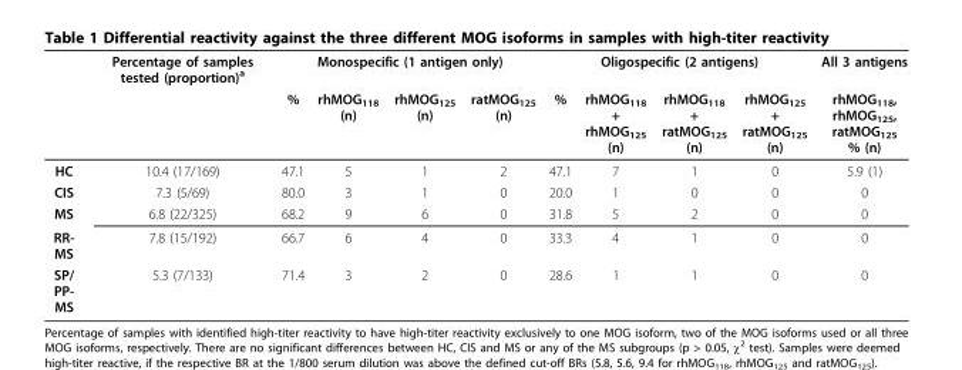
<table><thead><tr><td rowspan="2"></td><td rowspan="2">Percentage of samples tested (proportion)<sup>a</sup></td><td colspan="4">Monospecific (1 antigen only)</td><td colspan="4">Oligospecific (2 antigens)</td><td rowspan="2">All 3 antigens rhMOG<sub>118</sub>, rhMOG<sub>125</sub>, ratMOG<sub>125</sub> % (n)</td></tr><tr><td>%</td><td>rhMOG<sub>118</sub> (n)</td><td>rhMOG<sub>125</sub> (n)</td><td>ratMOG<sub>125</sub> (n)</td><td>%</td><td>rhMOG<sub>118</sub> + rhMOG<sub>125</sub> (n)</td><td>rhMOG<sub>118</sub> + ratMOG<sub>125</sub> (n)</td><td>rhMOG<sub>125</sub> + ratMOG<sub>125</sub> (n)</td></tr></thead><tbody><tr><td>HC</td><td>10.4 (17/169)</td><td>47.1</td><td>5</td><td>1</td><td>2</td><td>47.1</td><td>7</td><td>1</td><td>0</td><td>5.9 (1)</td></tr><tr><td>CIS</td><td>7.3 (5/69)</td><td>80.0</td><td>3</td><td>1</td><td>0</td><td>20.0</td><td>1</td><td>0</td><td>0</td><td>0</td></tr><tr><td>MS</td><td>6.8 (22/325)</td><td>68.2</td><td>9</td><td>6</td><td>0</td><td>31.8</td><td>5</td><td>2</td><td>0</td><td>0</td></tr><tr><td>RR- MS</td><td>7.8 (15/192)</td><td>66.7</td><td>6</td><td>4</td><td>0</td><td>33.3</td><td>4</td><td>1</td><td>0</td><td>0</td></tr><tr><td>SP/ PP- MS</td><td>5.3 (7/133)</td><td>71.4</td><td>3</td><td>2</td><td>0</td><td>28.6</td><td>1</td><td>1</td><td>0</td><td>0</td></tr></tbody></table>